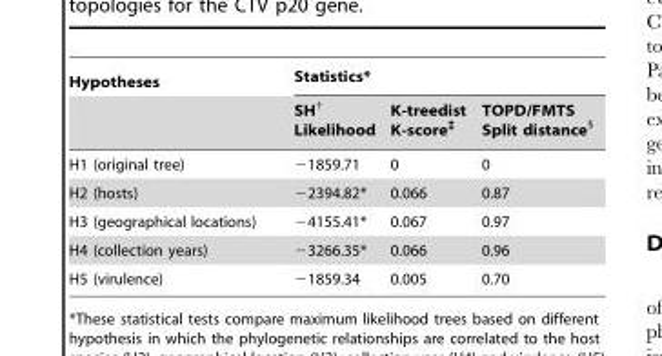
<table><thead><tr><td rowspan="2">Hypotheses</td><td colspan="3">Statistics*</td></tr><tr><td>SH† Likelihood</td><td>K-treedist K-score‡</td><td>TOPD/FMTS Split distance§</td></tr></thead><tbody><tr><td>H1 (original tree)</td><td>−1859.71</td><td>0</td><td>0</td></tr><tr><td>H2 (hosts)</td><td>−2394.82*</td><td>0.066</td><td>0.87</td></tr><tr><td>H3 (geographical locations)</td><td>−4155.41*</td><td>0.067</td><td>0.97</td></tr><tr><td>H4 (collection years)</td><td>−3266.35*</td><td>0.066</td><td>0.96</td></tr><tr><td>H5 (virulence)</td><td>−1859.34</td><td>0.005</td><td>0.70</td></tr></tbody></table>